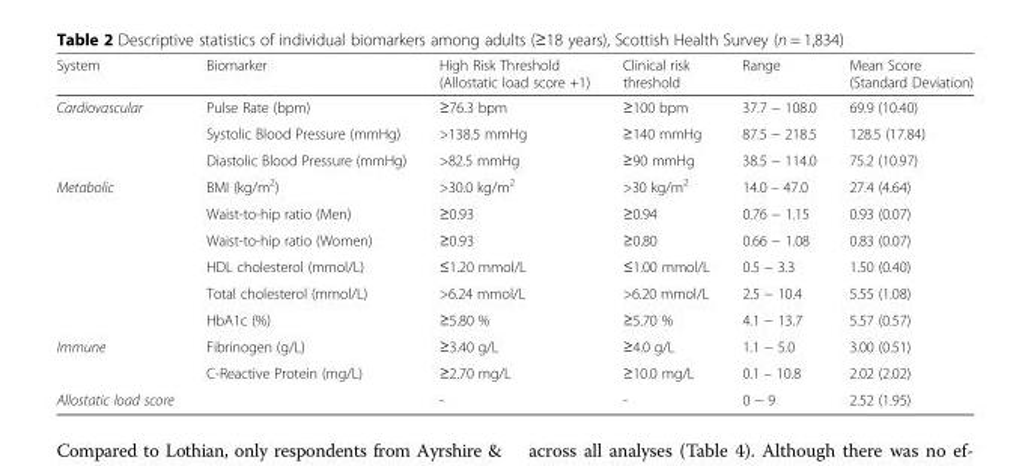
<table><thead><tr><td>System</td><td>Biomarker</td><td>High Risk Threshold (Allostatic load score +1)</td><td>Clinical risk threshold</td><td>Range</td><td>Mean Score (Standard Deviation)</td></tr></thead><tbody><tr><td rowspan="3">Cardiovascular</td><td>Pulse Rate (bpm)</td><td>≥76.3 bpm</td><td>≥100 bpm</td><td>37.7 − 108.0</td><td>69.9 (10.40)</td></tr><tr><td>Systolic Blood Pressure (mmHg)</td><td>&gt;138.5 mmHg</td><td>≥140 mmHg</td><td>87.5 − 218.5</td><td>128.5 (17.84)</td></tr><tr><td>Diastolic Blood Pressure (mmHg)</td><td>&gt;82.5 mmHg</td><td>≥90 mmHg</td><td>38.5 − 114.0</td><td>75.2 (10.97)</td></tr><tr><td rowspan="6">Metabolic</td><td>BMI (kg/m<sup>2</sup>)</td><td>&gt;30.0 kg/m<sup>2</sup></td><td>&gt;30 kg/m<sup>2</sup></td><td>14.0 – 47.0</td><td>27.4 (4.64)</td></tr><tr><td>Waist-to-hip ratio (Men)</td><td>≥0.93</td><td>≥0.94</td><td>0.76 − 1.15</td><td>0.93 (0.07)</td></tr><tr><td>Waist-to-hip ratio (Women)</td><td>≥0.93</td><td>≥0.80</td><td>0.66 − 1.08</td><td>0.83 (0.07)</td></tr><tr><td>HDL cholesterol (mmol/L)</td><td>≤1.20 mmol/L</td><td>≤1.00 mmol/L</td><td>0.5 − 3.3</td><td>1.50 (0.40)</td></tr><tr><td>Total cholesterol (mmol/L)</td><td>&gt;6.24 mmol/L</td><td>&gt;6.20 mmol/L</td><td>2.5 − 10.4</td><td>5.55 (1.08)</td></tr><tr><td>HbA1c (%)</td><td>≥5.80 %</td><td>≥5.70 %</td><td>4.1 − 13.7</td><td>5.57 (0.57)</td></tr><tr><td rowspan="2">Immune</td><td>Fibrinogen (g/L)</td><td>≥3.40 g/L</td><td>≥4.0 g/L</td><td>1.1 − 5.0</td><td>3.00 (0.51)</td></tr><tr><td>C-Reactive Protein (mg/L)</td><td>≥2.70 mg/L</td><td>≥10.0 mg/L</td><td>0.1 – 10.8</td><td>2.02 (2.02)</td></tr><tr><td>Allostatic load score</td><td></td><td>-</td><td>-</td><td>0 − 9</td><td>2.52 (1.95)</td></tr></tbody></table>